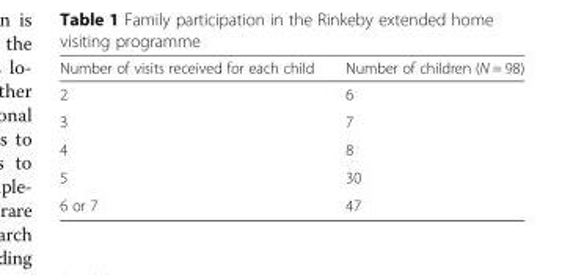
<table><thead><tr><td>Number of visits received for each child</td><td>Number of children (N = 98)</td></tr></thead><tbody><tr><td>2</td><td>6</td></tr><tr><td>3</td><td>7</td></tr><tr><td>4</td><td>8</td></tr><tr><td>5</td><td>30</td></tr><tr><td>6 or 7</td><td>47</td></tr></tbody></table>